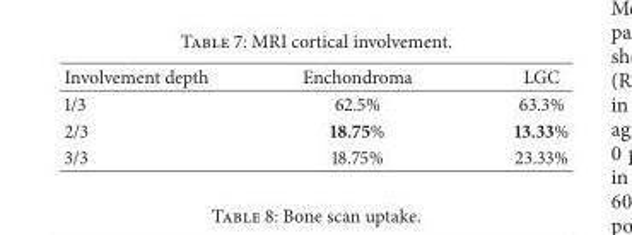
<table><thead><tr><td>Involvement depth</td><td>Enchondroma</td><td>LGC</td></tr></thead><tbody><tr><td>1/3</td><td>62.5%</td><td>63.3%</td></tr><tr><td>2/3</td><td>18.75%</td><td>13.33%</td></tr><tr><td>3/3</td><td>18.75%</td><td>23.33%</td></tr></tbody></table>